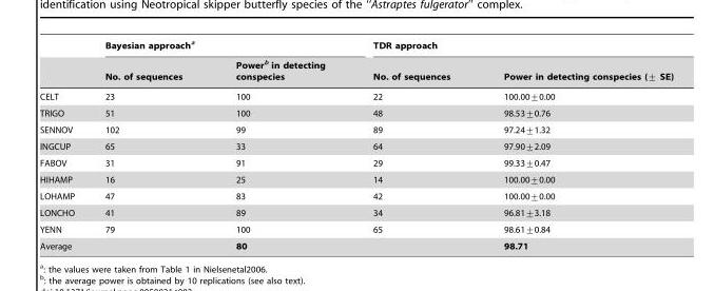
<table><thead><tr><td rowspan="2"></td><td colspan="2">Bayesian approach<sup>a</sup></td><td colspan="2">TDR approach</td></tr><tr><td>No. of sequences</td><td>Power<sup>b</sup> in detecting conspecies</td><td>No. of sequences</td><td>Power in detecting conspecies (+ SE)</td></tr></thead><tbody><tr><td>CELT</td><td>23</td><td>100</td><td>22</td><td>100.00+0.00</td></tr><tr><td>TRIGO</td><td>51</td><td>100</td><td>48</td><td>98.53+0.76</td></tr><tr><td>SENNOV</td><td>102</td><td>99</td><td>89</td><td>97.24+1.32</td></tr><tr><td>INGCUP</td><td>65</td><td>33</td><td>64</td><td>97.90+2.09</td></tr><tr><td>FABOV</td><td>31</td><td>91</td><td>29</td><td>99.33+0.47</td></tr><tr><td>HIHAMP</td><td>16</td><td>25</td><td>14</td><td>100.00+0.00</td></tr><tr><td>LOHAMP</td><td>47</td><td>83</td><td>42</td><td>100.00+0.00</td></tr><tr><td>LONCHO</td><td>41</td><td>89</td><td>34</td><td>96.81+3.18</td></tr><tr><td>YENN</td><td>79</td><td>100</td><td>65</td><td>98.61+0.84</td></tr><tr><td>Average</td><td></td><td>80</td><td></td><td>98.71</td></tr></tbody></table>